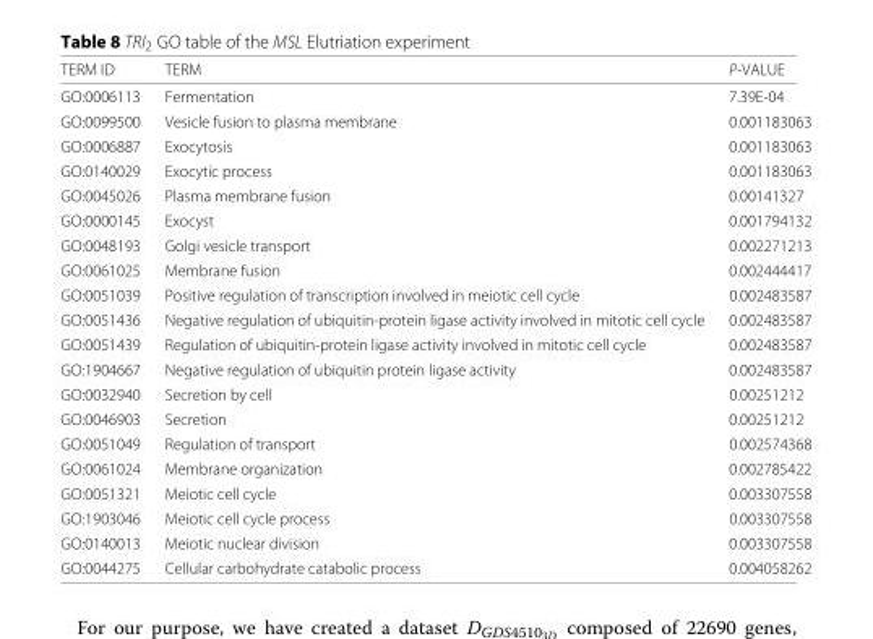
<table><thead><tr><td>TERM ID</td><td>TERM</td><td>P-VALUE</td></tr></thead><tbody><tr><td>GO:0006113</td><td>Fermentation</td><td>7.39E-04</td></tr><tr><td>GO:0099500</td><td>Vesicle fusion to plasma membrane</td><td>0.001183063</td></tr><tr><td>GO:0006887</td><td>Exocytosis</td><td>0.001183063</td></tr><tr><td>GO:0140029</td><td>Exocytic process</td><td>0.001183063</td></tr><tr><td>GO:0045026</td><td>Plasma membrane fusion</td><td>0.00141327</td></tr><tr><td>GO:0000145</td><td>Exocyst</td><td>0.001794132</td></tr><tr><td>GO:0048193</td><td>Golgi vesicle transport</td><td>0.002271213</td></tr><tr><td>GO:0061025</td><td>Membrane fusion</td><td>0.002444417</td></tr><tr><td>GO:0051039</td><td>Positive regulation of transcription involved in meiotic cell cycle</td><td>0.002483587</td></tr><tr><td>GO:0051436</td><td>Negative regulation of ubiquitin-protein ligase activity involved in mitotic cell cycle</td><td>0.002483587</td></tr><tr><td>GO:0051439</td><td>Regulation of ubiquitin-protein ligase activity involved in mitotic cell cycle</td><td>0.002483587</td></tr><tr><td>GO:1904667</td><td>Negative regulation of ubiquitin protein ligase activity</td><td>0.002483587</td></tr><tr><td>GO:0032940</td><td>Secretion by cell</td><td>0.00251212</td></tr><tr><td>GO:0046903</td><td>Secretion</td><td>0.00251212</td></tr><tr><td>GO:0051049</td><td>Regulation of transport</td><td>0.002574368</td></tr><tr><td>GO:0061024</td><td>Membrane organization</td><td>0.002785422</td></tr><tr><td>GO:0051321</td><td>Meiotic cell cycle</td><td>0.003307558</td></tr><tr><td>GO:1903046</td><td>Meiotic cell cycle process</td><td>0.003307558</td></tr><tr><td>GO:0140013</td><td>Meiotic nuclear division</td><td>0.003307558</td></tr><tr><td>GO:0044275</td><td>Cellular carbohydrate catabolic process</td><td>0.004058262</td></tr></tbody></table>